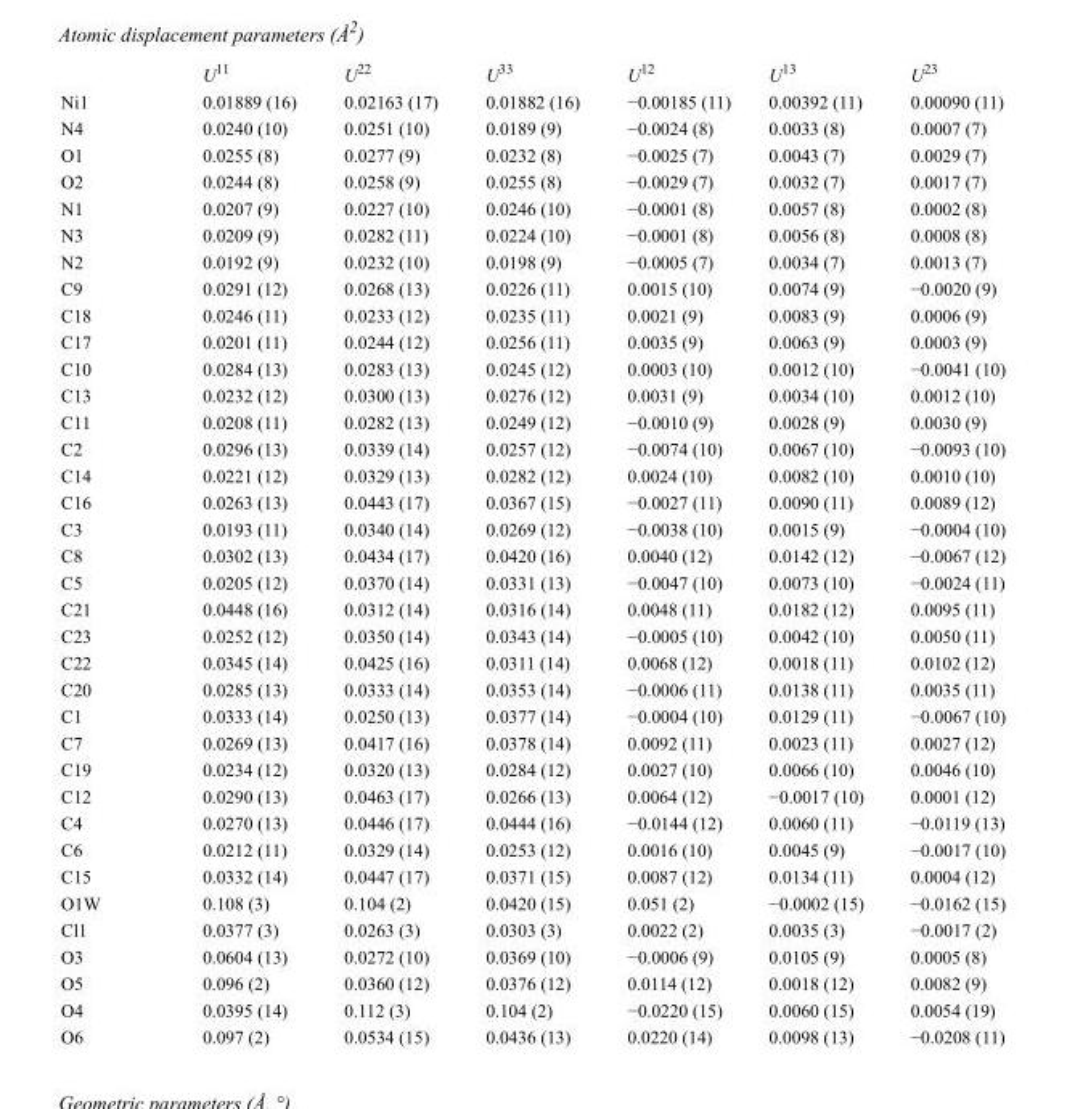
<table><thead><tr><td></td><td>U<sup>11</sup></td><td>U<sup>22</sup></td><td>U<sup>33</sup></td><td>U<sup>12</sup></td><td>U<sup>13</sup></td><td>U<sup>23</sup></td></tr></thead><tbody><tr><td>Ni1</td><td>0.01889 (16)</td><td>0.02163 (17)</td><td>0.01882 (16)</td><td>−0.00185 (11)</td><td>0.00392 (11)</td><td>0.00090 (11)</td></tr><tr><td>N4</td><td>0.0240 (10)</td><td>0.0251 (10)</td><td>0.0189 (9)</td><td>−0.0024 (8)</td><td>0.0033 (8)</td><td>0.0007 (7)</td></tr><tr><td>O1</td><td>0.0255 (8)</td><td>0.0277 (9)</td><td>0.0232 (8)</td><td>−0.0025 (7)</td><td>0.0043 (7)</td><td>0.0029 (7)</td></tr><tr><td>O2</td><td>0.0244 (8)</td><td>0.0258 (9)</td><td>0.0255 (8)</td><td>−0.0029 (7)</td><td>0.0032 (7)</td><td>0.0017 (7)</td></tr><tr><td>N1</td><td>0.0207 (9)</td><td>0.0227 (10)</td><td>0.0246 (10)</td><td>−0.0001 (8)</td><td>0.0057 (8)</td><td>0.0002 (8)</td></tr><tr><td>N3</td><td>0.0209 (9)</td><td>0.0282 (11)</td><td>0.0224 (10)</td><td>−0.0001 (8)</td><td>0.0056 (8)</td><td>0.0008 (8)</td></tr><tr><td>N2</td><td>0.0192 (9)</td><td>0.0232 (10)</td><td>0.0198 (9)</td><td>−0.0005 (7)</td><td>0.0034 (7)</td><td>0.0013 (7)</td></tr><tr><td>C9</td><td>0.0291 (12)</td><td>0.0268 (13)</td><td>0.0226 (11)</td><td>0.0015 (10)</td><td>0.0074 (9)</td><td>−0.0020 (9)</td></tr><tr><td>C18</td><td>0.0246 (11)</td><td>0.0233 (12)</td><td>0.0235 (11)</td><td>0.0021 (9)</td><td>0.0083 (9)</td><td>0.0006 (9)</td></tr><tr><td>C17</td><td>0.0201 (11)</td><td>0.0244 (12)</td><td>0.0256 (11)</td><td>0.0035 (9)</td><td>0.0063 (9)</td><td>0.0003 (9)</td></tr><tr><td>C10</td><td>0.0284 (13)</td><td>0.0283 (13)</td><td>0.0245 (12)</td><td>0.0003 (10)</td><td>0.0012 (10)</td><td>−0.0041 (10)</td></tr><tr><td>C13</td><td>0.0232 (12)</td><td>0.0300 (13)</td><td>0.0276 (12)</td><td>0.0031 (9)</td><td>0.0034 (10)</td><td>0.0012 (10)</td></tr><tr><td>C11</td><td>0.0208 (11)</td><td>0.0282 (13)</td><td>0.0249 (12)</td><td>−0.0010 (9)</td><td>0.0028 (9)</td><td>0.0030 (9)</td></tr><tr><td>C2</td><td>0.0296 (13)</td><td>0.0339 (14)</td><td>0.0257 (12)</td><td>−0.0074 (10)</td><td>0.0067 (10)</td><td>−0.0093 (10)</td></tr><tr><td>C14</td><td>0.0221 (12)</td><td>0.0329 (13)</td><td>0.0282 (12)</td><td>0.0024 (10)</td><td>0.0082 (10)</td><td>0.0010 (10)</td></tr><tr><td>C16</td><td>0.0263 (13)</td><td>0.0443 (17)</td><td>0.0367 (15)</td><td>−0.0027 (11)</td><td>0.0090 (11)</td><td>0.0089 (12)</td></tr><tr><td>C3</td><td>0.0193 (11)</td><td>0.0340 (14)</td><td>0.0269 (12)</td><td>−0.0038 (10)</td><td>0.0015 (9)</td><td>−0.0004 (10)</td></tr><tr><td>C8</td><td>0.0302 (13)</td><td>0.0434 (17)</td><td>0.0420 (16)</td><td>0.0040 (12)</td><td>0.0142 (12)</td><td>−0.0067 (12)</td></tr><tr><td>C5</td><td>0.0205 (12)</td><td>0.0370 (14)</td><td>0.0331 (13)</td><td>−0.0047 (10)</td><td>0.0073 (10)</td><td>−0.0024 (11)</td></tr><tr><td>C21</td><td>0.0448 (16)</td><td>0.0312 (14)</td><td>0.0316 (14)</td><td>0.0048 (11)</td><td>0.0182 (12)</td><td>0.0095 (11)</td></tr><tr><td>C23</td><td>0.0252 (12)</td><td>0.0350 (14)</td><td>0.0343 (14)</td><td>−0.0005 (10)</td><td>0.0042 (10)</td><td>0.0050 (11)</td></tr><tr><td>C22</td><td>0.0345 (14)</td><td>0.0425 (16)</td><td>0.0311 (14)</td><td>0.0068 (12)</td><td>0.0018 (11)</td><td>0.0102 (12)</td></tr><tr><td>C20</td><td>0.0285 (13)</td><td>0.0333 (14)</td><td>0.0353 (14)</td><td>−0.0006 (11)</td><td>0.0138 (11)</td><td>0.0035 (11)</td></tr><tr><td>C1</td><td>0.0333 (14)</td><td>0.0250 (13)</td><td>0.0377 (14)</td><td>−0.0004 (10)</td><td>0.0129 (11)</td><td>−0.0067 (10)</td></tr><tr><td>C7</td><td>0.0269 (13)</td><td>0.0417 (16)</td><td>0.0378 (14)</td><td>0.0092 (11)</td><td>0.0023 (11)</td><td>0.0027 (12)</td></tr><tr><td>C19</td><td>0.0234 (12)</td><td>0.0320 (13)</td><td>0.0284 (12)</td><td>0.0027 (10)</td><td>0.0066 (10)</td><td>0.0046 (10)</td></tr><tr><td>C12</td><td>0.0290 (13)</td><td>0.0463 (17)</td><td>0.0266 (13)</td><td>0.0064 (12)</td><td>−0.0017 (10)</td><td>0.0001 (12)</td></tr><tr><td>C4</td><td>0.0270 (13)</td><td>0.0446 (17)</td><td>0.0444 (16)</td><td>−0.0144 (12)</td><td>0.0060 (11)</td><td>−0.0119 (13)</td></tr><tr><td>C6</td><td>0.0212 (11)</td><td>0.0329 (14)</td><td>0.0253 (12)</td><td>0.0016 (10)</td><td>0.0045 (9)</td><td>−0.0017 (10)</td></tr><tr><td>C15</td><td>0.0332 (14)</td><td>0.0447 (17)</td><td>0.0371 (15)</td><td>0.0087 (12)</td><td>0.0134 (11)</td><td>0.0004 (12)</td></tr><tr><td>O1W</td><td>0.108 (3)</td><td>0.104 (2)</td><td>0.0420 (15)</td><td>0.051 (2)</td><td>−0.0002 (15)</td><td>−0.0162 (15)</td></tr><tr><td>Cl1</td><td>0.0377 (3)</td><td>0.0263 (3)</td><td>0.0303 (3)</td><td>0.0022 (2)</td><td>0.0035 (3)</td><td>−0.0017 (2)</td></tr><tr><td>O3</td><td>0.0604 (13)</td><td>0.0272 (10)</td><td>0.0369 (10)</td><td>−0.0006 (9)</td><td>0.0105 (9)</td><td>0.0005 (8)</td></tr><tr><td>O5</td><td>0.096 (2)</td><td>0.0360 (12)</td><td>0.0376 (12)</td><td>0.0114 (12)</td><td>0.0018 (12)</td><td>0.0082 (9)</td></tr><tr><td>O4</td><td>0.0395 (14)</td><td>0.112 (3)</td><td>0.104 (2)</td><td>−0.0220 (15)</td><td>0.0060 (15)</td><td>0.0054 (19)</td></tr><tr><td>O6</td><td>0.097 (2)</td><td>0.0534 (15)</td><td>0.0436 (13)</td><td>0.0220 (14)</td><td>0.0098 (13)</td><td>−0.0208 (11)</td></tr></tbody></table>